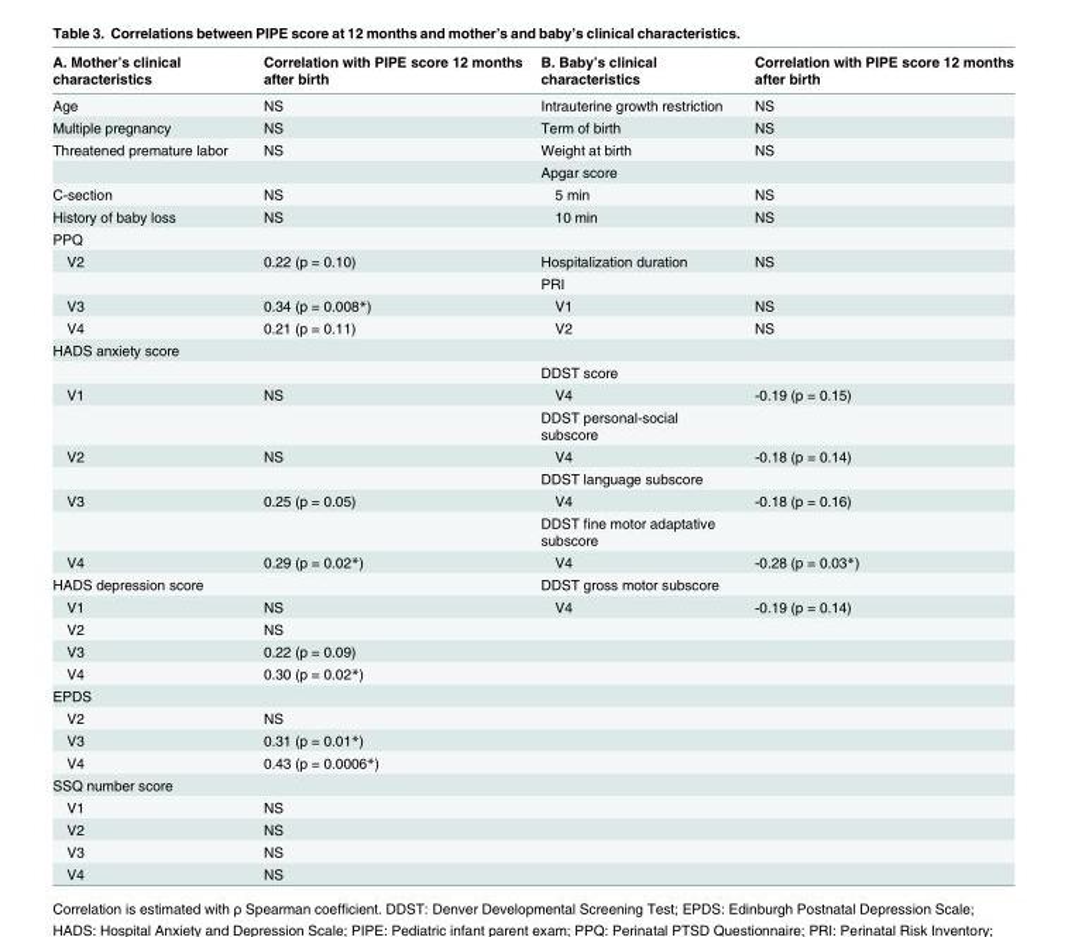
<table><thead><tr><td>A. Mother’s clinical characteristics</td><td>Correlation with PIPE score 12 months after birth</td><td>B. Baby’s clinical characteristics</td><td>Correlation with PIPE score 12 months after birth</td></tr></thead><tbody><tr><td>Age</td><td>NS</td><td>Intrauterine growth restriction</td><td>NS</td></tr><tr><td>Multiple pregnancy</td><td>NS</td><td>Term of birth</td><td>NS</td></tr><tr><td rowspan="2">Threatened premature labor</td><td>NS</td><td>Weight at birth</td><td>NS</td></tr><tr><td></td><td>Apgar score</td><td></td></tr><tr><td>C-section</td><td>NS</td><td>5 min</td><td>NS</td></tr><tr><td>History of baby loss</td><td>NS</td><td>10 min</td><td>NS</td></tr><tr><td colspan="4">PPQ</td></tr><tr><td rowspan="2">V2</td><td>0.22 (p = 0.10)</td><td>Hospitalization duration</td><td>NS</td></tr><tr><td></td><td>PRI</td><td></td></tr><tr><td>V3</td><td>0.34 (p = 0.008*)</td><td>V1</td><td>NS</td></tr><tr><td>V4</td><td>0.21 (p = 0.11)</td><td>V2</td><td>NS</td></tr><tr><td colspan="4">HADS anxiety score</td></tr><tr><td></td><td></td><td>DDST score</td><td></td></tr><tr><td rowspan="2">V1</td><td>NS</td><td>V4</td><td>-0.19 (p = 0.15)</td></tr><tr><td></td><td>DDST personal-social subscore</td><td></td></tr><tr><td rowspan="2">V2</td><td>NS</td><td>V4</td><td>-0.18 (p = 0.14)</td></tr><tr><td></td><td>DDST language subscore</td><td></td></tr><tr><td rowspan="2">V3</td><td>0.25 (p = 0.05)</td><td>V4</td><td>-0.18 (p = 0.16)</td></tr><tr><td></td><td>DDST fine motor adaptative subscore</td><td></td></tr><tr><td>V4</td><td>0.29 (p = 0.02*)</td><td>V4</td><td>-0.28 (p = 0.03*)</td></tr><tr><td>HADS depression score</td><td></td><td>DDST gross motor subscore</td><td></td></tr><tr><td>V1</td><td>NS</td><td>V4</td><td>-0.19 (p = 0.14)</td></tr><tr><td>V2</td><td>NS</td><td></td><td></td></tr><tr><td>V3</td><td>0.22 (p = 0.09)</td><td></td><td></td></tr><tr><td>V4</td><td>0.30 (p = 0.02*)</td><td></td><td></td></tr><tr><td colspan="4">EPDS</td></tr><tr><td>V2</td><td>NS</td><td></td><td></td></tr><tr><td>V3</td><td>0.31 (p = 0.01*)</td><td></td><td></td></tr><tr><td>V4</td><td>0.43 (p = 0.0006*)</td><td></td><td></td></tr><tr><td colspan="4">SSQ number score</td></tr><tr><td>V1</td><td>NS</td><td></td><td></td></tr><tr><td>V2</td><td>NS</td><td></td><td></td></tr><tr><td>V3</td><td>NS</td><td></td><td></td></tr><tr><td>V4</td><td>NS</td><td></td><td></td></tr></tbody></table>